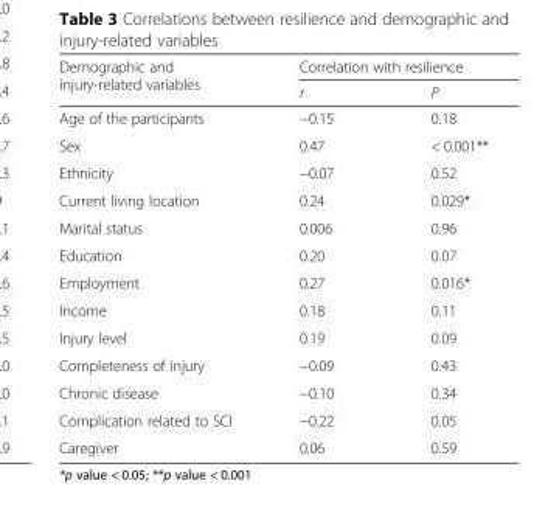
<table><thead><tr><td rowspan="2">Demographic and injury-related variables</td><td colspan="2">Correlation with resilience</td></tr><tr><td>r</td><td>P</td></tr></thead><tbody><tr><td>Age of the participants</td><td>−0.15</td><td>0.18</td></tr><tr><td>Sex</td><td>0.47</td><td>&lt; 0.001**</td></tr><tr><td>Ethnicity</td><td>−0.07</td><td>0.52</td></tr><tr><td>Current living location</td><td>0.24</td><td>0.029*</td></tr><tr><td>Marital status</td><td>0.006</td><td>0.96</td></tr><tr><td>Education</td><td>0.20</td><td>0.07</td></tr><tr><td>Employment</td><td>0.27</td><td>0.016*</td></tr><tr><td>Income</td><td>0.18</td><td>0.11</td></tr><tr><td>Injury level</td><td>0.19</td><td>0.09</td></tr><tr><td>Completeness of injury</td><td>−0.09</td><td>0.43</td></tr><tr><td>Chronic disease</td><td>−0.10</td><td>0.34</td></tr><tr><td>Complication related to SCI</td><td>−0.22</td><td>0.05</td></tr><tr><td>Caregiver</td><td>0.06</td><td>0.59</td></tr></tbody></table>